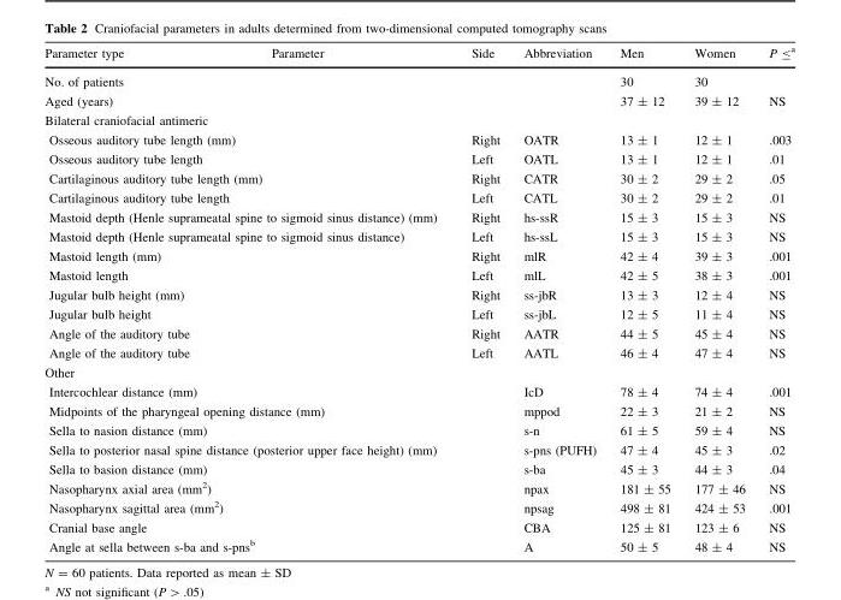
<table><thead><tr><td>Parameter type</td><td>Parameter</td><td>Side</td><td>Abbreviation</td><td>Men</td><td>Women</td><td>P ≤<sup>a</sup></td></tr></thead><tbody><tr><td colspan="4">No. of patients</td><td>30</td><td>30</td><td></td></tr><tr><td colspan="4">Aged (years)</td><td>37 ± 12</td><td>39 ± 12</td><td>NS</td></tr><tr><td colspan="7">Bilateral craniofacial antimeric</td></tr><tr><td colspan="2">Osseous auditory tube length (mm)</td><td>Right</td><td>OATR</td><td>13 ± 1</td><td>12 ± 1</td><td>.003</td></tr><tr><td colspan="2">Osseous auditory tube length</td><td>Left</td><td>OATL</td><td>13 ± 1</td><td>12 ± 1</td><td>.01</td></tr><tr><td colspan="2">Cartilaginous auditory tube length (mm)</td><td>Right</td><td>CATR</td><td>30 ± 2</td><td>29 ± 2</td><td>.05</td></tr><tr><td colspan="2">Cartilaginous auditory tube length</td><td>Left</td><td>CATL</td><td>30 ± 2</td><td>29 ± 2</td><td>.01</td></tr><tr><td colspan="2">Mastoid depth (Henle suprameatal spine to sigmoid sinus distance) (mm)</td><td>Right</td><td>hs-ssR</td><td>15 ± 3</td><td>15 ± 3</td><td>NS</td></tr><tr><td colspan="2">Mastoid depth (Henle suprameatal spine to sigmoid sinus distance)</td><td>Left</td><td>hs-ssL</td><td>15 ± 3</td><td>15 ± 3</td><td>NS</td></tr><tr><td colspan="2">Mastoid length (mm)</td><td>Right</td><td>mlR</td><td>42 ± 4</td><td>39 ± 3</td><td>.001</td></tr><tr><td colspan="2">Mastoid length</td><td>Left</td><td>mlL</td><td>42 ± 5</td><td>38 ± 3</td><td>.001</td></tr><tr><td colspan="2">Jugular bulb height (mm)</td><td>Right</td><td>ss-jbR</td><td>13 ± 3</td><td>12 ± 4</td><td>NS</td></tr><tr><td colspan="2">Jugular bulb height</td><td>Left</td><td>ss-jbL</td><td>12 ± 5</td><td>11 ± 4</td><td>NS</td></tr><tr><td colspan="2">Angle of the auditory tube</td><td>Right</td><td>AATR</td><td>44 ± 5</td><td>45 ± 4</td><td>NS</td></tr><tr><td colspan="2">Angle of the auditory tube</td><td>Left</td><td>AATL</td><td>46 ± 4</td><td>47 ± 4</td><td>NS</td></tr><tr><td colspan="7">Other</td></tr><tr><td colspan="2">Intercochlear distance (mm)</td><td></td><td>IcD</td><td>78 ± 4</td><td>74 ± 4</td><td>.001</td></tr><tr><td colspan="2">Midpoints of the pharyngeal opening distance (mm)</td><td></td><td>mppod</td><td>22 ± 3</td><td>21 ± 2</td><td>NS</td></tr><tr><td colspan="2">Sella to nasion distance (mm)</td><td></td><td>s-n</td><td>61 ± 5</td><td>59 ± 4</td><td>NS</td></tr><tr><td colspan="2">Sella to posterior nasal spine distance (posterior upper face height) (mm)</td><td></td><td>s-pns (PUFH)</td><td>47 ± 4</td><td>45 ± 3</td><td>.02</td></tr><tr><td colspan="2">Sella to basion distance (mm)</td><td></td><td>s-ba</td><td>45 ± 3</td><td>44 ± 3</td><td>.04</td></tr><tr><td colspan="2">Nasopharynx axial area (mm<sup>2</sup>)</td><td></td><td>npax</td><td>181 ± 55</td><td>177 ± 46</td><td>NS</td></tr><tr><td colspan="2">Nasopharynx sagittal area (mm<sup>2</sup>)</td><td></td><td>npsag</td><td>498 ± 81</td><td>424 ± 53</td><td>.001</td></tr><tr><td colspan="2">Cranial base angle</td><td></td><td>CBA</td><td>125 ± 81</td><td>123 ± 6</td><td>NS</td></tr><tr><td colspan="2">Angle at sella between s-ba and s-pns<sup>b</sup></td><td></td><td>A</td><td>50 ± 5</td><td>48 ± 4</td><td>NS</td></tr></tbody></table>